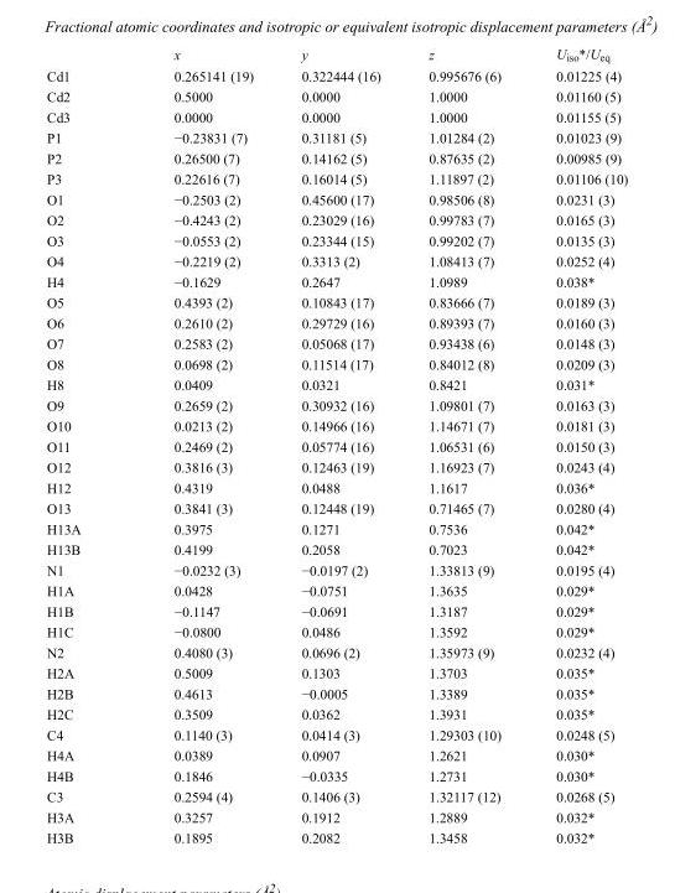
<table><thead><tr><td></td><td>x</td><td>y</td><td>z</td><td>U<sub>iso</sub>*/U<sub>eq</sub></td></tr></thead><tbody><tr><td>Cd1</td><td>0.265141 (19)</td><td>0.322444 (16)</td><td>0.995676 (6)</td><td>0.01225 (4)</td></tr><tr><td>Cd2</td><td>0.5000</td><td>0.0000</td><td>1.0000</td><td>0.01160 (5)</td></tr><tr><td>Cd3</td><td>0.0000</td><td>0.0000</td><td>1.0000</td><td>0.01155 (5)</td></tr><tr><td>P1</td><td>−0.23831 (7)</td><td>0.31181 (5)</td><td>1.01284 (2)</td><td>0.01023 (9)</td></tr><tr><td>P2</td><td>0.26500 (7)</td><td>0.14162 (5)</td><td>0.87635 (2)</td><td>0.00985 (9)</td></tr><tr><td>P3</td><td>0.22616 (7)</td><td>0.16014 (5)</td><td>1.11897 (2)</td><td>0.01106 (10)</td></tr><tr><td>O1</td><td>−0.2503 (2)</td><td>0.45600 (17)</td><td>0.98506 (8)</td><td>0.0231 (3)</td></tr><tr><td>O2</td><td>−0.4243 (2)</td><td>0.23029 (16)</td><td>0.99783 (7)</td><td>0.0165 (3)</td></tr><tr><td>O3</td><td>−0.0553 (2)</td><td>0.23344 (15)</td><td>0.99202 (7)</td><td>0.0135 (3)</td></tr><tr><td>O4</td><td>−0.2219 (2)</td><td>0.3313 (2)</td><td>1.08413 (7)</td><td>0.0252 (4)</td></tr><tr><td>H4</td><td>−0.1629</td><td>0.2647</td><td>1.0989</td><td>0.038*</td></tr><tr><td>O5</td><td>0.4393 (2)</td><td>0.10843 (17)</td><td>0.83666 (7)</td><td>0.0189 (3)</td></tr><tr><td>O6</td><td>0.2610 (2)</td><td>0.29729 (16)</td><td>0.89393 (7)</td><td>0.0160 (3)</td></tr><tr><td>O7</td><td>0.2583 (2)</td><td>0.05068 (17)</td><td>0.93438 (6)</td><td>0.0148 (3)</td></tr><tr><td>O8</td><td>0.0698 (2)</td><td>0.11514 (17)</td><td>0.84012 (8)</td><td>0.0209 (3)</td></tr><tr><td>H8</td><td>0.0409</td><td>0.0321</td><td>0.8421</td><td>0.031*</td></tr><tr><td>O9</td><td>0.2659 (2)</td><td>0.30932 (16)</td><td>1.09801 (7)</td><td>0.0163 (3)</td></tr><tr><td>O10</td><td>0.0213 (2)</td><td>0.14966 (16)</td><td>1.14671 (7)</td><td>0.0181 (3)</td></tr><tr><td>O11</td><td>0.2469 (2)</td><td>0.05774 (16)</td><td>1.06531 (6)</td><td>0.0150 (3)</td></tr><tr><td>O12</td><td>0.3816 (3)</td><td>0.12463 (19)</td><td>1.16923 (7)</td><td>0.0243 (4)</td></tr><tr><td>H12</td><td>0.4319</td><td>0.0488</td><td>1.1617</td><td>0.036*</td></tr><tr><td>O13</td><td>0.3841 (3)</td><td>0.12448 (19)</td><td>0.71465 (7)</td><td>0.0280 (4)</td></tr><tr><td>H13A</td><td>0.3975</td><td>0.1271</td><td>0.7536</td><td>0.042*</td></tr><tr><td>H13B</td><td>0.4199</td><td>0.2058</td><td>0.7023</td><td>0.042*</td></tr><tr><td>N1</td><td>−0.0232 (3)</td><td>−0.0197 (2)</td><td>1.33813 (9)</td><td>0.0195 (4)</td></tr><tr><td>H1A</td><td>0.0428</td><td>−0.0751</td><td>1.3635</td><td>0.029*</td></tr><tr><td>H1B</td><td>−0.1147</td><td>−0.0691</td><td>1.3187</td><td>0.029*</td></tr><tr><td>H1C</td><td>−0.0800</td><td>0.0486</td><td>1.3592</td><td>0.029*</td></tr><tr><td>N2</td><td>0.4080 (3)</td><td>0.0696 (2)</td><td>1.35973 (9)</td><td>0.0232 (4)</td></tr><tr><td>H2A</td><td>0.5009</td><td>0.1303</td><td>1.3703</td><td>0.035*</td></tr><tr><td>H2B</td><td>0.4613</td><td>−0.0005</td><td>1.3389</td><td>0.035*</td></tr><tr><td>H2C</td><td>0.3509</td><td>0.0362</td><td>1.3931</td><td>0.035*</td></tr><tr><td>C4</td><td>0.1140 (3)</td><td>0.0414 (3)</td><td>1.29303 (10)</td><td>0.0248 (5)</td></tr><tr><td>H4A</td><td>0.0389</td><td>0.0907</td><td>1.2621</td><td>0.030*</td></tr><tr><td>H4B</td><td>0.1846</td><td>−0.0335</td><td>1.2731</td><td>0.030*</td></tr><tr><td>C3</td><td>0.2594 (4)</td><td>0.1406 (3)</td><td>1.32117 (12)</td><td>0.0268 (5)</td></tr><tr><td>H3A</td><td>0.3257</td><td>0.1912</td><td>1.2889</td><td>0.032*</td></tr><tr><td>H3B</td><td>0.1895</td><td>0.2082</td><td>1.3458</td><td>0.032*</td></tr></tbody></table>